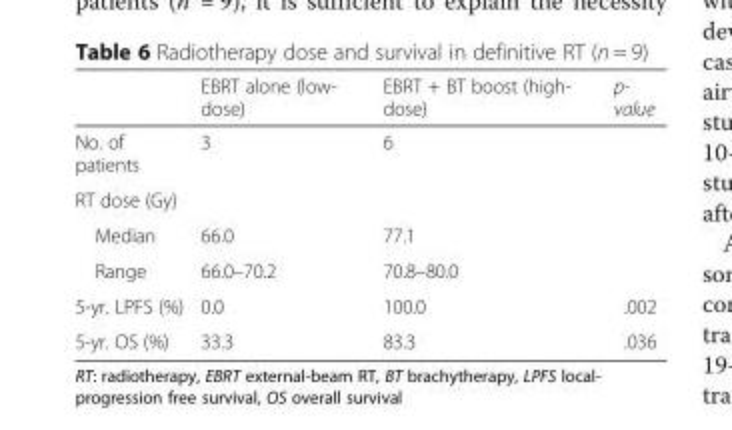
<table><thead><tr><td></td><td>EBRT alone (low- dose)</td><td>EBRT + BT boost (high- dose)</td><td>p- value</td></tr></thead><tbody><tr><td>No. of patients</td><td>3</td><td>6</td><td></td></tr><tr><td colspan="4">RT dose (Gy)</td></tr><tr><td>Median</td><td>66.0</td><td>77.1</td><td></td></tr><tr><td>Range</td><td>66.0–70.2</td><td>70.8–80.0</td><td></td></tr><tr><td>5-yr. LPFS (%)</td><td>0.0</td><td>100.0</td><td>.002</td></tr><tr><td>5-yr. OS (%)</td><td>33.3</td><td>83.3</td><td>.036</td></tr></tbody></table>